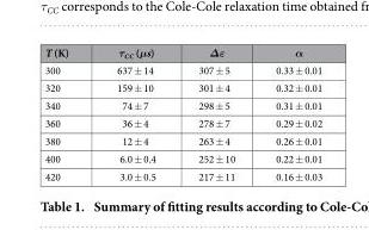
<table><thead><tr><td>T (K)</td><td>τ<sub>CC</sub> (μs)</td><td>Δε</td><td>α</td></tr></thead><tbody><tr><td>300</td><td>637 ± 14</td><td>307 ± 5</td><td>0.33 ± 0.01</td></tr><tr><td>320</td><td>159 ± 10</td><td>301 ± 4</td><td>0.32 ± 0.01</td></tr><tr><td>340</td><td>74 ± 7</td><td>298 ± 5</td><td>0.31 ± 0.01</td></tr><tr><td>360</td><td>36 ± 4</td><td>278 ± 7</td><td>0.29 ± 0.02</td></tr><tr><td>380</td><td>12 ± 4</td><td>263 ± 4</td><td>0.26 ± 0.01</td></tr><tr><td>400</td><td>6.0 ± 0.4</td><td>252 ± 10</td><td>0.22 ± 0.01</td></tr><tr><td>420</td><td>3.0 ± 0.5</td><td>217 ± 11</td><td>0.16 ± 0.03</td></tr></tbody></table>